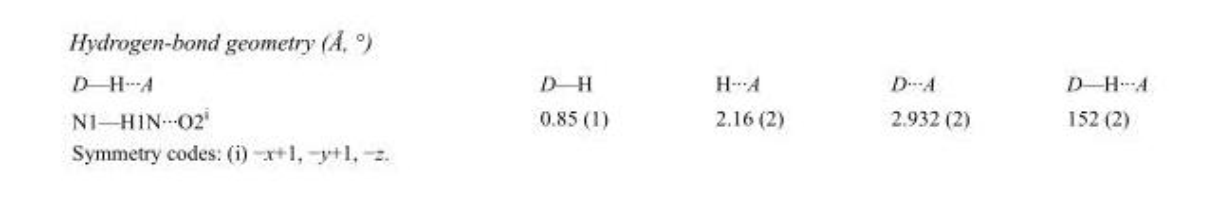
<table><tbody><tr><td>D—H···A</td><td>D—H</td><td>H···A</td><td>D···A</td><td>D—H···A</td></tr><tr><td>N1—H1N···O2<sup>i</sup></td><td>0.85 (1)</td><td>2.16 (2)</td><td>2.932 (2)</td><td>152 (2)</td></tr></tbody></table>